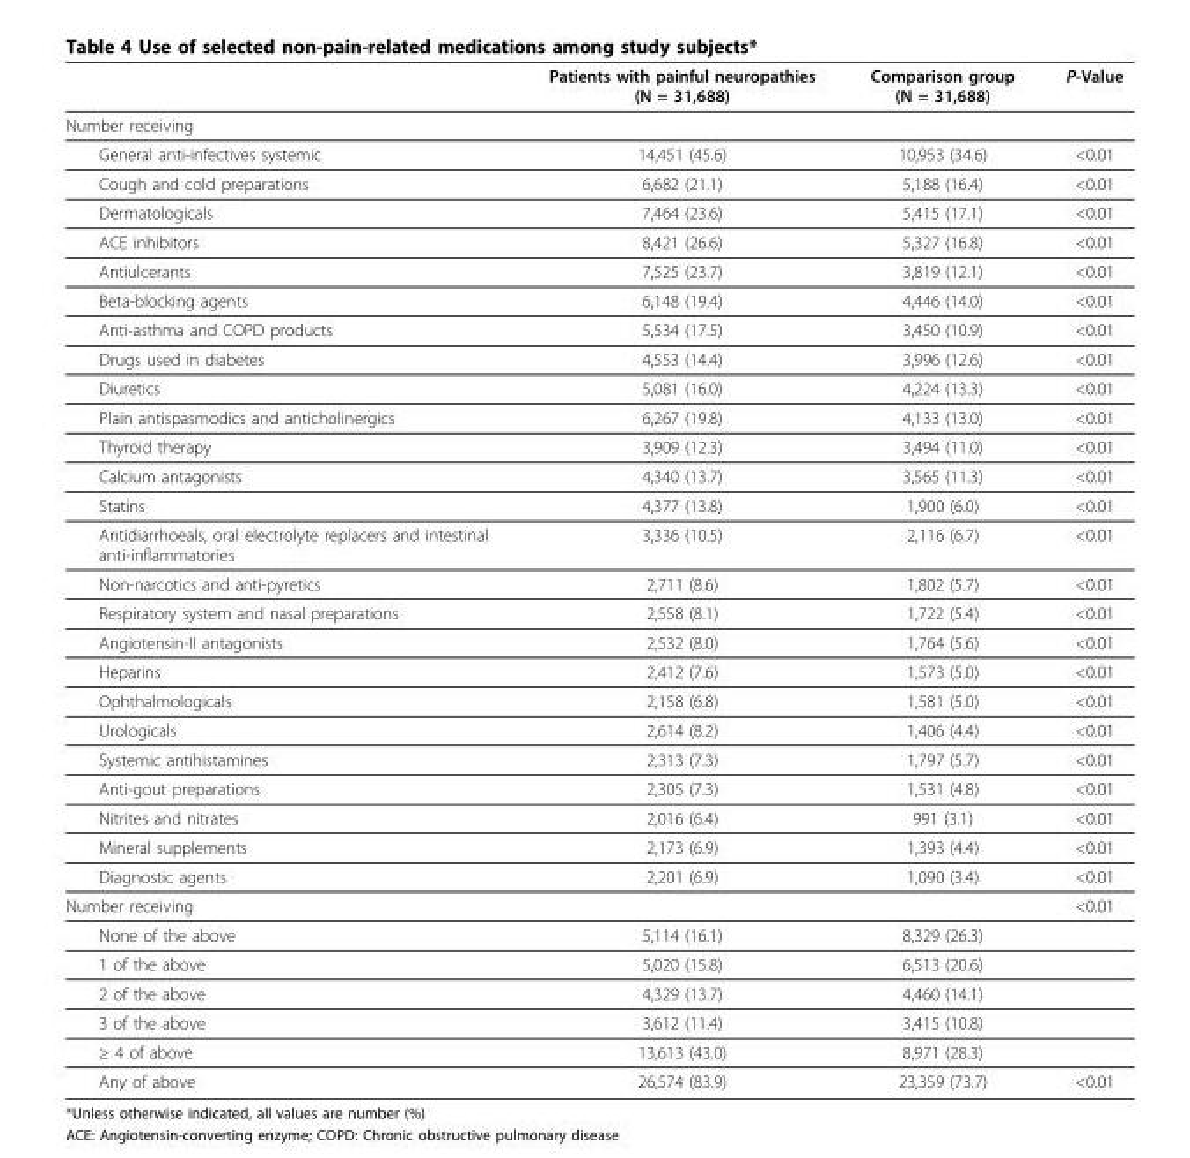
<table><thead><tr><td></td><td>Patients with painful neuropathies (N = 31,688)</td><td>Comparison group (N = 31,688)</td><td>P-Value</td></tr></thead><tbody><tr><td colspan="4">Number receiving</td></tr><tr><td>General anti-infectives systemic</td><td>14,451 (45.6)</td><td>10,953 (34.6)</td><td>&lt;0.01</td></tr><tr><td>Cough and cold preparations</td><td>6,682 (21.1)</td><td>5,188 (16.4)</td><td>&lt;0.01</td></tr><tr><td>Dermatologicals</td><td>7,464 (23.6)</td><td>5,415 (17.1)</td><td>&lt;0.01</td></tr><tr><td>ACE inhibitors</td><td>8,421 (26.6)</td><td>5,327 (16.8)</td><td>&lt;0.01</td></tr><tr><td>Antiulcerants</td><td>7,525 (23.7)</td><td>3,819 (12.1)</td><td>&lt;0.01</td></tr><tr><td>Beta-blocking agents</td><td>6,148 (19.4)</td><td>4,446 (14.0)</td><td>&lt;0.01</td></tr><tr><td>Anti-asthma and COPD products</td><td>5,534 (17.5)</td><td>3,450 (10.9)</td><td>&lt;0.01</td></tr><tr><td>Drugs used in diabetes</td><td>4,553 (14.4)</td><td>3,996 (12.6)</td><td>&lt;0.01</td></tr><tr><td>Diuretics</td><td>5,081 (16.0)</td><td>4,224 (13.3)</td><td>&lt;0.01</td></tr><tr><td>Plain antispasmodics and anticholinergics</td><td>6,267 (19.8)</td><td>4,133 (13.0)</td><td>&lt;0.01</td></tr><tr><td>Thyroid therapy</td><td>3,909 (12.3)</td><td>3,494 (11.0)</td><td>&lt;0.01</td></tr><tr><td>Calcium antagonists</td><td>4,340 (13.7)</td><td>3,565 (11.3)</td><td>&lt;0.01</td></tr><tr><td>Statins</td><td>4,377 (13.8)</td><td>1,900 (6.0)</td><td>&lt;0.01</td></tr><tr><td>Antidiarrhoeals, oral electrolyte replacers and intestinal anti-inflammatories</td><td>3,336 (10.5)</td><td>2,116 (6.7)</td><td>&lt;0.01</td></tr><tr><td>Non-narcotics and anti-pyretics</td><td>2,711 (8.6)</td><td>1,802 (5.7)</td><td>&lt;0.01</td></tr><tr><td>Respiratory system and nasal preparations</td><td>2,558 (8.1)</td><td>1,722 (5.4)</td><td>&lt;0.01</td></tr><tr><td>Angiotensin-II antagonists</td><td>2,532 (8.0)</td><td>1,764 (5.6)</td><td>&lt;0.01</td></tr><tr><td>Heparins</td><td>2,412 (7.6)</td><td>1,573 (5.0)</td><td>&lt;0.01</td></tr><tr><td>Ophthalmologicals</td><td>2,158 (6.8)</td><td>1,581 (5.0)</td><td>&lt;0.01</td></tr><tr><td>Urologicals</td><td>2,614 (8.2)</td><td>1,406 (4.4)</td><td>&lt;0.01</td></tr><tr><td>Systemic antihistamines</td><td>2,313 (7.3)</td><td>1,797 (5.7)</td><td>&lt;0.01</td></tr><tr><td>Anti-gout preparations</td><td>2,305 (7.3)</td><td>1,531 (4.8)</td><td>&lt;0.01</td></tr><tr><td>Nitrites and nitrates</td><td>2,016 (6.4)</td><td>991 (3.1)</td><td>&lt;0.01</td></tr><tr><td>Mineral supplements</td><td>2,173 (6.9)</td><td>1,393 (4.4)</td><td>&lt;0.01</td></tr><tr><td>Diagnostic agents</td><td>2,201 (6.9)</td><td>1,090 (3.4)</td><td>&lt;0.01</td></tr><tr><td>Number receiving</td><td></td><td></td><td>&lt;0.01</td></tr><tr><td>None of the above</td><td>5,114 (16.1)</td><td>8,329 (26.3)</td><td></td></tr><tr><td>1 of the above</td><td>5,020 (15.8)</td><td>6,513 (20.6)</td><td></td></tr><tr><td>2 of the above</td><td>4,329 (13.7)</td><td>4,460 (14.1)</td><td></td></tr><tr><td>3 of the above</td><td>3,612 (11.4)</td><td>3,415 (10.8)</td><td></td></tr><tr><td>≥ 4 of above</td><td>13,613 (43.0)</td><td>8,971 (28.3)</td><td></td></tr><tr><td>Any of above</td><td>26,574 (83.9)</td><td>23,359 (73.7)</td><td>&lt;0.01</td></tr></tbody></table>